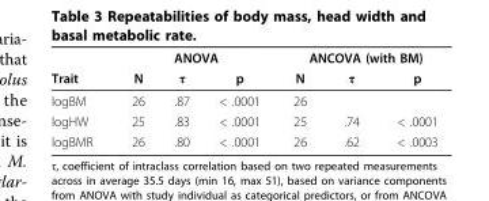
<table><thead><tr><td rowspan="2">Trait</td><td colspan="3">ANOVA</td><td colspan="3">ANCOVA (with BM)</td></tr><tr><td>N</td><td>τ</td><td>p</td><td>N</td><td>τ</td><td>p</td></tr></thead><tbody><tr><td>logBM</td><td>26</td><td>.87</td><td>&lt; .0001</td><td>26</td><td></td><td></td></tr><tr><td>logHW</td><td>25</td><td>.83</td><td>&lt; .0001</td><td>25</td><td>.74</td><td>&lt; .0001</td></tr><tr><td>logBMR</td><td>26</td><td>.80</td><td>&lt; .0001</td><td>26</td><td>.62</td><td>&lt; .0003</td></tr></tbody></table>